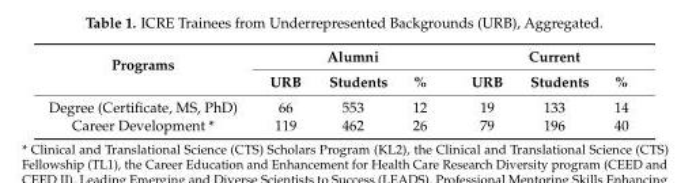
<table><thead><tr><td rowspan="2">Programs</td><td colspan="3">Alumni</td><td colspan="3">Current</td></tr><tr><td>URB</td><td>Students</td><td>%</td><td>URB</td><td>Students</td><td>%</td></tr></thead><tbody><tr><td>Degree (Certificate, MS, PhD)</td><td>66</td><td>553</td><td>12</td><td>19</td><td>133</td><td>14</td></tr><tr><td>Career Development *</td><td>119</td><td>462</td><td>26</td><td>79</td><td>196</td><td>40</td></tr></tbody></table>